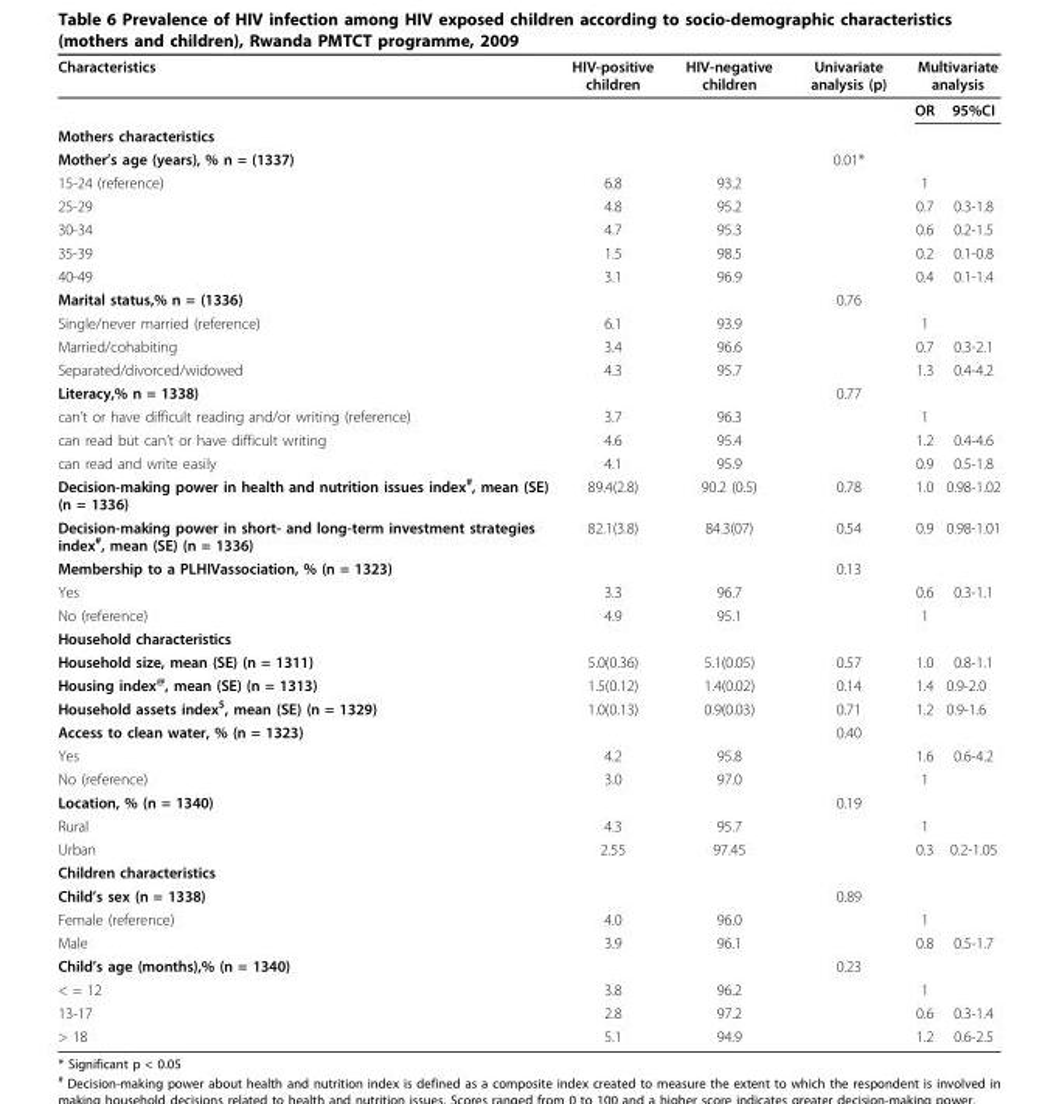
<table><thead><tr><td rowspan="2">Characteristics</td><td rowspan="2">HIV-positive children</td><td rowspan="2">HIV-negative children</td><td rowspan="2">Univariate analysis (p)</td><td colspan="2">Multivariate analysis</td></tr><tr><td>OR</td><td>95%CI</td></tr></thead><tbody><tr><td colspan="6">Mothers characteristics</td></tr><tr><td>Mother’s age (years), % n = (1337)</td><td></td><td></td><td>0.01*</td><td></td><td></td></tr><tr><td>15-24 (reference)</td><td>6.8</td><td>93.2</td><td></td><td>1</td><td></td></tr><tr><td>25-29</td><td>4.8</td><td>95.2</td><td></td><td>0.7</td><td>0.3-1.8</td></tr><tr><td>30-34</td><td>4.7</td><td>95.3</td><td></td><td>0.6</td><td>0.2-1.5</td></tr><tr><td>35-39</td><td>1.5</td><td>98.5</td><td></td><td>0.2</td><td>0.1-0.8</td></tr><tr><td>40-49</td><td>3.1</td><td>96.9</td><td></td><td>0.4</td><td>0.1-1.4</td></tr><tr><td>Marital status,% n = (1336)</td><td></td><td></td><td>0.76</td><td></td><td></td></tr><tr><td>Single/never married (reference)</td><td>6.1</td><td>93.9</td><td></td><td>1</td><td></td></tr><tr><td>Married/cohabiting</td><td>3.4</td><td>96.6</td><td></td><td>0.7</td><td>0.3-2.1</td></tr><tr><td>Separated/divorced/widowed</td><td>4.3</td><td>95.7</td><td></td><td>1.3</td><td>0.4-4.2</td></tr><tr><td>Literacy,% n = 1338)</td><td></td><td></td><td>0.77</td><td></td><td></td></tr><tr><td>can’t or have difficult reading and/or writing (reference)</td><td>3.7</td><td>96.3</td><td></td><td>1</td><td></td></tr><tr><td>can read but can’t or have difficult writing</td><td>4.6</td><td>95.4</td><td></td><td>1.2</td><td>0.4-4.6</td></tr><tr><td>can read and write easily</td><td>4.1</td><td>95.9</td><td></td><td>0.9</td><td>0.5-1.8</td></tr><tr><td>Decision-making power in health and nutrition issues index<sup>#</sup>, mean (SE) (n = 1336)</td><td>89.4(2.8)</td><td>90.2 (0.5)</td><td>0.78</td><td>1.0</td><td>0.98-1.02</td></tr><tr><td>Decision-making power in short- and long-term investment strategies index<sup>#</sup>, mean (SE) (n = 1336)</td><td>82.1(3.8)</td><td>84.3(07)</td><td>0.54</td><td>0.9</td><td>0.98-1.01</td></tr><tr><td>Membership to a PLHIVassociation, % (n = 1323)</td><td></td><td></td><td>0.13</td><td></td><td></td></tr><tr><td>Yes</td><td>3.3</td><td>96.7</td><td></td><td>0.6</td><td>0.3-1.1</td></tr><tr><td>No (reference)</td><td>4.9</td><td>95.1</td><td></td><td>1</td><td></td></tr><tr><td colspan="6">Household characteristics</td></tr><tr><td>Household size, mean (SE) (n = 1311)</td><td>5.0(0.36)</td><td>5.1(0.05)</td><td>0.57</td><td>1.0</td><td>0.8-1.1</td></tr><tr><td>Housing index<sup>@</sup>, mean (SE) (n = 1313)</td><td>1.5(0.12)</td><td>1.4(0.02)</td><td>0.14</td><td>1.4</td><td>0.9-2.0</td></tr><tr><td>Household assets index<sup>$</sup>, mean (SE) (n = 1329)</td><td>1.0(0.13)</td><td>0.9(0.03)</td><td>0.71</td><td>1.2</td><td>0.9-1.6</td></tr><tr><td>Access to clean water, % (n = 1323)</td><td></td><td></td><td>0.40</td><td></td><td></td></tr><tr><td>Yes</td><td>4.2</td><td>95.8</td><td></td><td>1.6</td><td>0.6-4.2</td></tr><tr><td>No (reference)</td><td>3.0</td><td>97.0</td><td></td><td>1</td><td></td></tr><tr><td>Location, % (n = 1340)</td><td></td><td></td><td>0.19</td><td></td><td></td></tr><tr><td>Rural</td><td>4.3</td><td>95.7</td><td></td><td>1</td><td></td></tr><tr><td>Urban</td><td>2.55</td><td>97.45</td><td></td><td>0.3</td><td>0.2-1.05</td></tr><tr><td colspan="6">Children characteristics</td></tr><tr><td>Child’s sex (n = 1338)</td><td></td><td></td><td>0.89</td><td></td><td></td></tr><tr><td>Female (reference)</td><td>4.0</td><td>96.0</td><td></td><td>1</td><td></td></tr><tr><td>Male</td><td>3.9</td><td>96.1</td><td></td><td>0.8</td><td>0.5-1.7</td></tr><tr><td>Child’s age (months),% (n = 1340)</td><td></td><td></td><td>0.23</td><td></td><td></td></tr><tr><td>&lt; = 12</td><td>3.8</td><td>96.2</td><td></td><td>1</td><td></td></tr><tr><td>13-17</td><td>2.8</td><td>97.2</td><td></td><td>0.6</td><td>0.3-1.4</td></tr><tr><td>&gt; 18</td><td>5.1</td><td>94.9</td><td></td><td>1.2</td><td>0.6-2.5</td></tr></tbody></table>